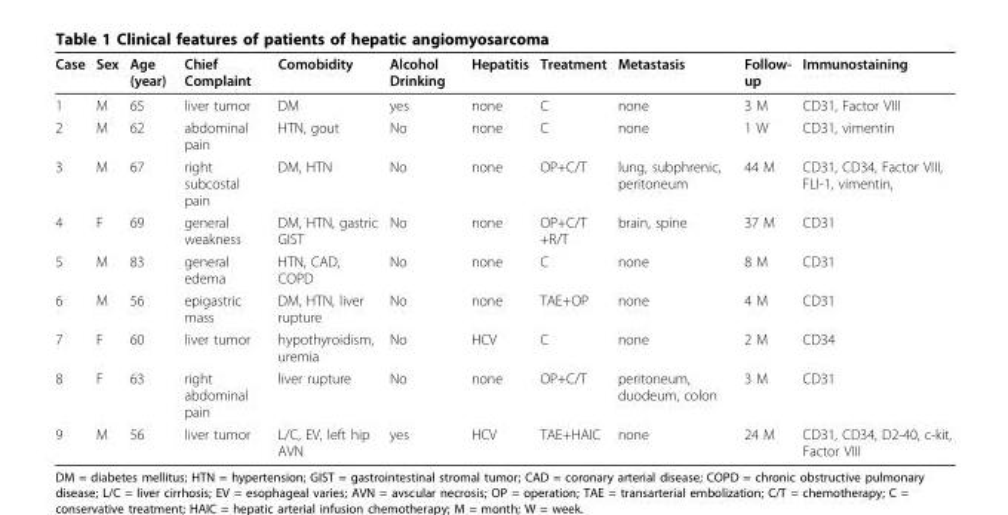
<table><thead><tr><td>Case</td><td>Sex</td><td>Age (year)</td><td>Chief Complaint</td><td>Comobidity</td><td>Alcohol Drinking</td><td>Hepatitis</td><td>Treatment</td><td>Metastasis</td><td>Follow- up</td><td>Immunostaining</td></tr></thead><tbody><tr><td>1</td><td>M</td><td>65</td><td>liver tumor</td><td>DM</td><td>yes</td><td>none</td><td>C</td><td>none</td><td>3 M</td><td>CD31, Factor VIII</td></tr><tr><td>2</td><td>M</td><td>62</td><td>abdominal pain</td><td>HTN, gout</td><td>No</td><td>none</td><td>C</td><td>none</td><td>1 W</td><td>CD31, vimentin</td></tr><tr><td>3</td><td>M</td><td>67</td><td>right subcostal pain</td><td>DM, HTN</td><td>No</td><td>none</td><td>OP+C/T</td><td>lung, subphrenic, peritoneum</td><td>44 M</td><td>CD31, CD34, Factor VIII, FLI-1, vimentin,</td></tr><tr><td>4</td><td>F</td><td>69</td><td>general weakness</td><td>DM, HTN, gastric GIST</td><td>No</td><td>none</td><td>OP+C/T +R/T</td><td>brain, spine</td><td>37 M</td><td>CD31</td></tr><tr><td>5</td><td>M</td><td>83</td><td>general edema</td><td>HTN, CAD, COPD</td><td>No</td><td>none</td><td>C</td><td>none</td><td>8 M</td><td>CD31</td></tr><tr><td>6</td><td>M</td><td>56</td><td>epigastric mass</td><td>DM, HTN, liver rupture</td><td>No</td><td>none</td><td>TAE+OP</td><td>none</td><td>4 M</td><td>CD31</td></tr><tr><td>7</td><td>F</td><td>60</td><td>liver tumor</td><td>hypothyroidism, uremia</td><td>No</td><td>HCV</td><td>C</td><td>none</td><td>2 M</td><td>CD34</td></tr><tr><td>8</td><td>F</td><td>63</td><td>right abdominal pain</td><td>liver rupture</td><td>No</td><td>none</td><td>OP+C/T</td><td>peritoneum, duodeum, colon</td><td>3 M</td><td>CD31</td></tr><tr><td>9</td><td>M</td><td>56</td><td>liver tumor</td><td>L/C, EV, left hip AVN</td><td>yes</td><td>HCV</td><td>TAE+HAIC</td><td>none</td><td>24 M</td><td>CD31, CD34, D2-40, c-kit, Factor VIII</td></tr></tbody></table>